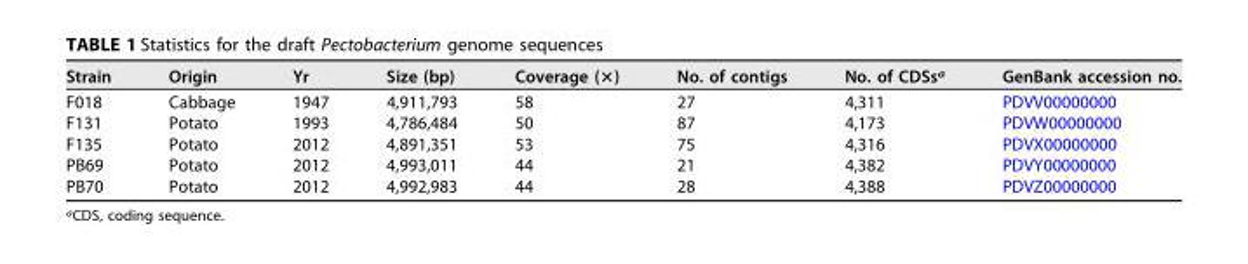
<table><thead><tr><td>Strain</td><td>Origin</td><td>Yr</td><td>Size (bp)</td><td>Coverage (×)</td><td>No. of contigs</td><td>No. of CDSs<sup>a</sup></td><td>GenBank accession no.</td></tr></thead><tbody><tr><td>F018</td><td>Cabbage</td><td>1947</td><td>4,911,793</td><td>58</td><td>27</td><td>4,311</td><td>PDVV00000000</td></tr><tr><td>F131</td><td>Potato</td><td>1993</td><td>4,786,484</td><td>50</td><td>87</td><td>4,173</td><td>PDVW00000000</td></tr><tr><td>F135</td><td>Potato</td><td>2012</td><td>4,891,351</td><td>53</td><td>75</td><td>4,316</td><td>PDVX00000000</td></tr><tr><td>PB69</td><td>Potato</td><td>2012</td><td>4,993,011</td><td>44</td><td>21</td><td>4,382</td><td>PDVY00000000</td></tr><tr><td>PB70</td><td>Potato</td><td>2012</td><td>4,992,983</td><td>44</td><td>28</td><td>4,388</td><td>PDVZ00000000</td></tr></tbody></table>